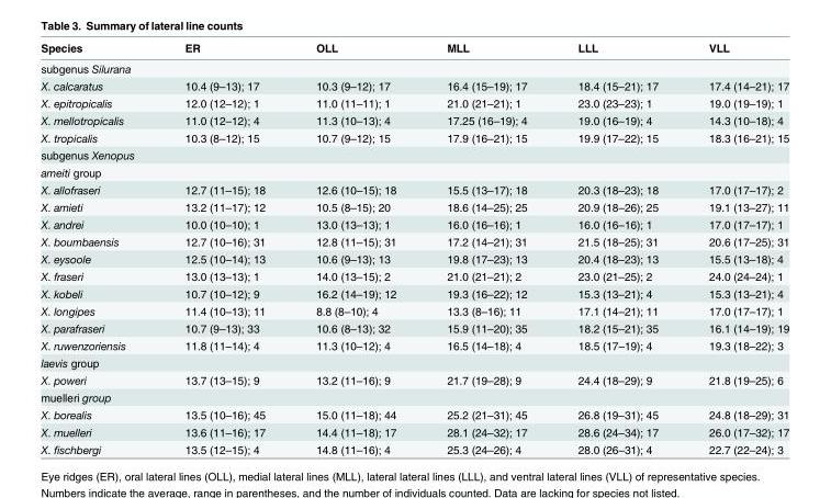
<table><thead><tr><td>Species</td><td>ER</td><td>OLL</td><td>MLL</td><td>LLL</td><td>VLL</td></tr></thead><tbody><tr><td colspan="6">subgenus Silurana</td></tr><tr><td>X. calcaratus</td><td>10.4 (9–13); 17</td><td>10.3 (9–12); 17</td><td>16.4 (15–19); 17</td><td>18.4 (15–21); 17</td><td>17.4 (14–21); 17</td></tr><tr><td>X. epitropicalis</td><td>12.0 (12–12); 1</td><td>11.0 (11–11); 1</td><td>21.0 (21–21); 1</td><td>23.0 (23–23); 1</td><td>19.0 (19–19); 1</td></tr><tr><td>X. mellotropicalis</td><td>11.0 (12–12); 4</td><td>11.3 (10–13); 4</td><td>17.25 (16–19); 4</td><td>19.0 (16–19); 4</td><td>14.3 (10–18); 4</td></tr><tr><td>X. tropicalis</td><td>10.3 (8–12); 15</td><td>10.7 (9–12); 15</td><td>17.9 (16–21); 15</td><td>19.9 (17–22); 15</td><td>18.3 (16–21); 15</td></tr><tr><td colspan="6">subgenus Xenopus</td></tr><tr><td colspan="6">ameiti group</td></tr><tr><td>X. allofraseri</td><td>12.7 (11–15); 18</td><td>12.6 (10–15); 18</td><td>15.5 (13–17); 18</td><td>20.3 (18–23); 18</td><td>17.0 (17–17); 2</td></tr><tr><td>X. amieti</td><td>13.2 (11–17); 12</td><td>10.5 (8–15); 20</td><td>18.6 (14–25); 25</td><td>20.9 (18–26); 25</td><td>19.1 (13–27); 11</td></tr><tr><td>X. andrei</td><td>10.0 (10–10); 1</td><td>13.0 (13–13); 1</td><td>16.0 (16–16); 1</td><td>16.0 (16–16); 1</td><td>17.0 (17–17); 1</td></tr><tr><td>X. boumbaensis</td><td>12.7 (10–16); 31</td><td>12.8 (11–15); 31</td><td>17.2 (14–21); 31</td><td>21.5 (18–25); 31</td><td>20.6 (17–25); 31</td></tr><tr><td>X. eysoole</td><td>12.5 (10–14); 13</td><td>10.6 (9–13); 13</td><td>19.8 (17–23); 13</td><td>20.4 (18–23); 13</td><td>15.5 (13–18); 4</td></tr><tr><td>X. fraseri</td><td>13.0 (13–13); 1</td><td>14.0 (13–15); 2</td><td>21.0 (21–21); 2</td><td>23.0 (21–25); 2</td><td>24.0 (24–24); 1</td></tr><tr><td>X. kobeli</td><td>10.7 (10–12); 9</td><td>16.2 (14–19); 12</td><td>19.3 (16–22); 12</td><td>15.3 (13–21); 4</td><td>15.3 (13–21); 4</td></tr><tr><td>X. longipes</td><td>11.4 (10–13); 11</td><td>8.8 (8–10); 4</td><td>13.3 (8–16); 11</td><td>17.1 (14–21); 11</td><td>17.0 (17–17); 1</td></tr><tr><td>X. parafraseri</td><td>10.7 (9–13); 33</td><td>10.6 (8–13); 32</td><td>15.9 (11–20); 35</td><td>18.2 (15–21); 35</td><td>16.1 (14–19); 19</td></tr><tr><td>X. ruwenzoriensis</td><td>11.8 (11–14); 4</td><td>11.3 (10–12); 4</td><td>16.5 (14–18); 4</td><td>18.5 (17–19); 4</td><td>19.3 (18–22); 3</td></tr><tr><td colspan="6">laevis group</td></tr><tr><td>X. poweri</td><td>13.7 (13–15); 9</td><td>13.2 (11–16); 9</td><td>21.7 (19–28); 9</td><td>24.4 (18–29); 9</td><td>21.8 (19–25); 6</td></tr><tr><td colspan="6">muelleri group</td></tr><tr><td>X. borealis</td><td>13.5 (10–16); 45</td><td>15.0 (11–18); 44</td><td>25.2 (21–31); 45</td><td>26.8 (19–31); 45</td><td>24.8 (18–29); 31</td></tr><tr><td>X. muelleri</td><td>13.6 (11–16); 17</td><td>14.4 (11–18); 17</td><td>28.1 (24–32); 17</td><td>28.6 (24–34); 17</td><td>26.0 (17–32); 17</td></tr><tr><td>X. fischbergi</td><td>13.5 (12–15); 4</td><td>14.8 (11–16); 4</td><td>25.3 (24–26); 4</td><td>28.0 (26–31); 4</td><td>22.7 (22–24); 3</td></tr></tbody></table>